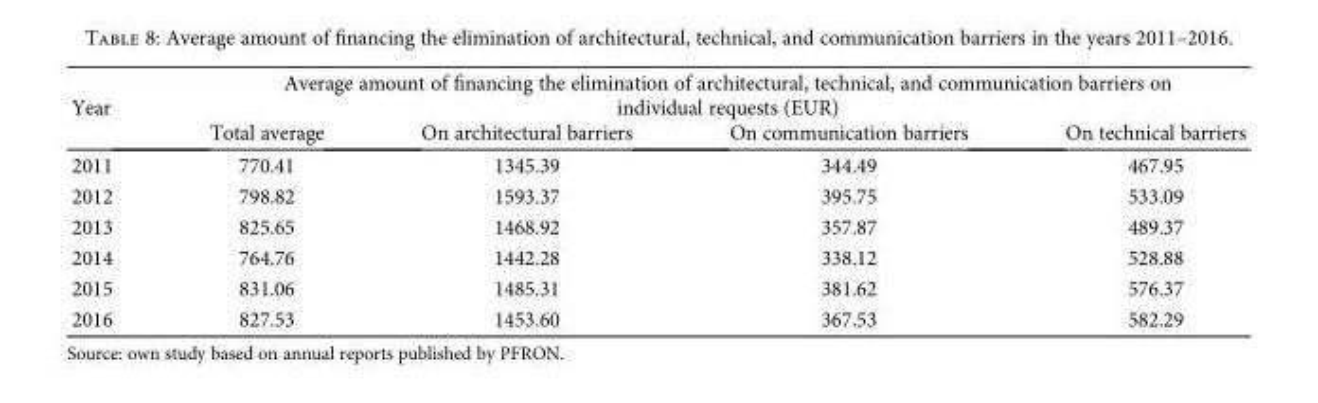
<table><thead><tr><td rowspan="2">Year</td><td colspan="4">Average amount of financing the elimination of architectural, technical, and communication barriers on individual requests (EUR)</td></tr><tr><td>Total average</td><td>On architectural barriers</td><td>On communication barriers</td><td>On technical barriers</td></tr></thead><tbody><tr><td>2011</td><td>770.41</td><td>1345.39</td><td>344.49</td><td>467.95</td></tr><tr><td>2012</td><td>798.82</td><td>1593.37</td><td>395.75</td><td>533.09</td></tr><tr><td>2013</td><td>825.65</td><td>1468.92</td><td>357.87</td><td>489.37</td></tr><tr><td>2014</td><td>764.76</td><td>1442.28</td><td>338.12</td><td>528.88</td></tr><tr><td>2015</td><td>831.06</td><td>1485.31</td><td>381.62</td><td>576.37</td></tr><tr><td>2016</td><td>827.53</td><td>1453.60</td><td>367.53</td><td>582.29</td></tr></tbody></table>